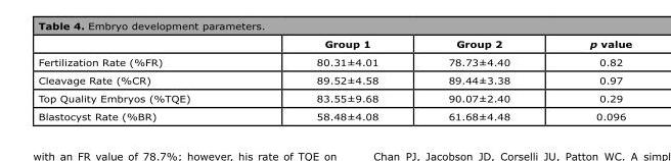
<table><thead><tr><td></td><td>Group 1</td><td>Group 2</td><td>p value</td></tr></thead><tbody><tr><td>Fertilization Rate (%FR)</td><td>80.31±4.01</td><td>78.73±4.40</td><td>0.82</td></tr><tr><td>Cleavage Rate (%CR)</td><td>89.52±4.58</td><td>89.44±3.38</td><td>0.97</td></tr><tr><td>Top Quality Embryos (%TQE)</td><td>83.55±9.68</td><td>90.07±2.40</td><td>0.29</td></tr><tr><td>Blastocyst Rate (%BR)</td><td>58.48±4.08</td><td>61.68±4.48</td><td>0.096</td></tr></tbody></table>